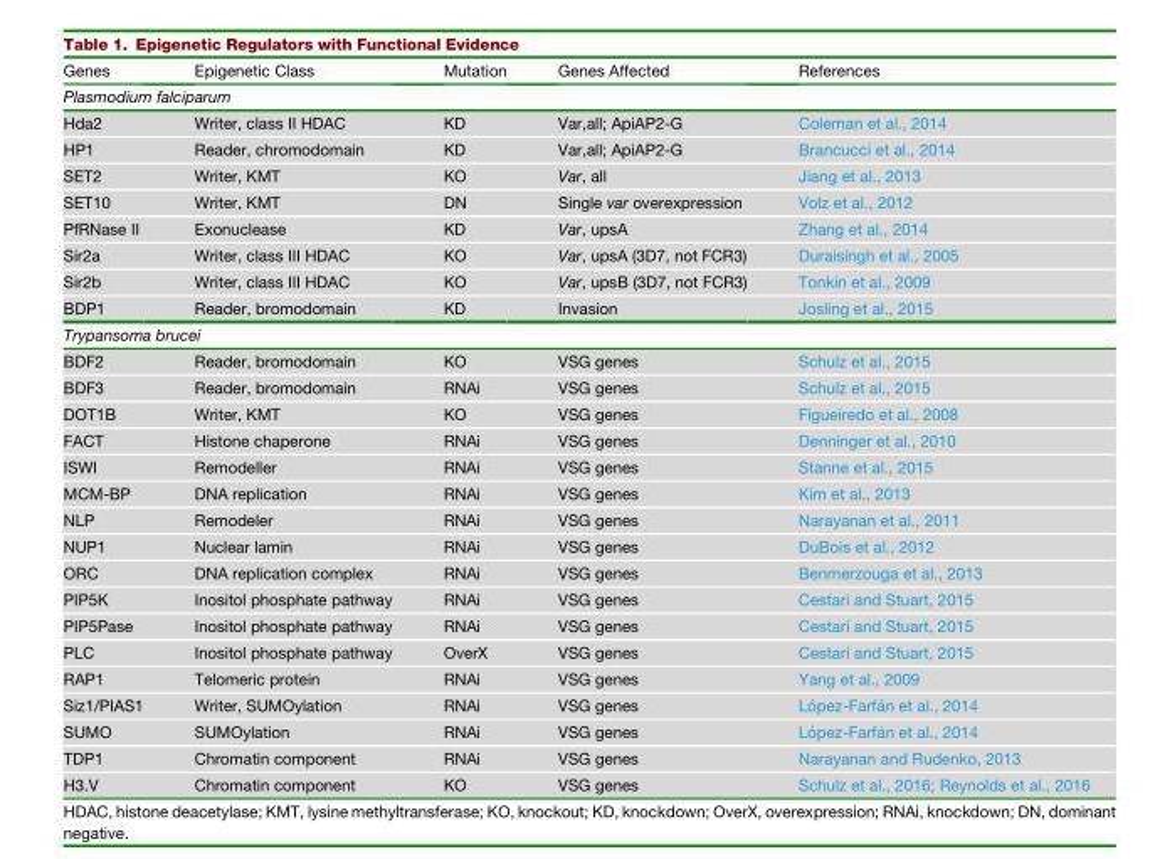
<table><thead><tr><td>Genes</td><td>Epigenetic Class</td><td>Mutation</td><td>Genes Affected</td><td>References</td></tr></thead><tbody><tr><td colspan="5">Plasmodium falciparum</td></tr><tr><td>Hda2</td><td>Writer, class II HDAC</td><td>KD</td><td>Var,all; ApiAP2-G</td><td>Coleman et al., 2014</td></tr><tr><td>HP1</td><td>Reader, chromodomain</td><td>KD</td><td>Var,all; ApiAP2-G</td><td>Brancucci et al., 2014</td></tr><tr><td>SET2</td><td>Writer, KMT</td><td>KO</td><td>Var, all</td><td>Jiang et al., 2013</td></tr><tr><td>SET10</td><td>Writer, KMT</td><td>DN</td><td>Single var overexpression</td><td>Volz et al., 2012</td></tr><tr><td>PfRNase II</td><td>Exonuclease</td><td>KD</td><td>Var, upsA</td><td>Zhang et al., 2014</td></tr><tr><td>Sir2a</td><td>Writer, class III HDAC</td><td>KO</td><td>Var, upsA (3D7, not FCR3)</td><td>Duraisingh et al., 2005</td></tr><tr><td>Sir2b</td><td>Writer, class III HDAC</td><td>KO</td><td>Var, upsB (3D7, not FCR3)</td><td>Tonkin et al., 2009</td></tr><tr><td>BDP1</td><td>Reader, bromodomain</td><td>KD</td><td>Invasion</td><td>Josling et al., 2015</td></tr><tr><td colspan="5">Trypansoma brucei</td></tr><tr><td>BDF2</td><td>Reader, bromodomain</td><td>KO</td><td>VSG genes</td><td>Schulz et al., 2015</td></tr><tr><td>BDF3</td><td>Reader, bromodomain</td><td>RNAi</td><td>VSG genes</td><td>Schulz et al., 2015</td></tr><tr><td>DOT1B</td><td>Writer, KMT</td><td>KO</td><td>VSG genes</td><td>Figueiredo et al., 2008</td></tr><tr><td>FACT</td><td>Histone chaperone</td><td>RNAi</td><td>VSG genes</td><td>Denninger et al., 2010</td></tr><tr><td>ISWI</td><td>Remodeller</td><td>RNAi</td><td>VSG genes</td><td>Stanne et al., 2015</td></tr><tr><td>MCM-BP</td><td>DNA replication</td><td>RNAi</td><td>VSG genes</td><td>Kim et al., 2013</td></tr><tr><td>NLP</td><td>Remodeler</td><td>RNAi</td><td>VSG genes</td><td>Narayanan et al., 2011</td></tr><tr><td>NUP1</td><td>Nuclear lamin</td><td>RNAi</td><td>VSG genes</td><td>DuBois et al., 2012</td></tr><tr><td>ORC</td><td>DNA replication complex</td><td>RNAi</td><td>VSG genes</td><td>Benmerzouga et al., 2013</td></tr><tr><td>PIP5K</td><td>Inositol phosphate pathway</td><td>RNAi</td><td>VSG genes</td><td>Cestari and Stuart, 2015</td></tr><tr><td>PIP5Pase</td><td>Inositol phosphate pathway</td><td>RNAi</td><td>VSG genes</td><td>Cestari and Stuart, 2015</td></tr><tr><td>PLC</td><td>Inositol phosphate pathway</td><td>OverX</td><td>VSG genes</td><td>Cestari and Stuart, 2015</td></tr><tr><td>RAP1</td><td>Telomeric protein</td><td>RNAi</td><td>VSG genes</td><td>Yang et al., 2009</td></tr><tr><td>Siz1/PIAS1</td><td>Writer, SUMOylation</td><td>RNAi</td><td>VSG genes</td><td>Lo´ pez-Farfa´ n et al., 2014</td></tr><tr><td>SUMO</td><td>SUMOylation</td><td>RNAi</td><td>VSG genes</td><td>Lo´ pez-Farfa´ n et al., 2014</td></tr><tr><td>TDP1</td><td>Chromatin component</td><td>RNAi</td><td>VSG genes</td><td>Narayanan and Rudenko, 2013</td></tr><tr><td>H3.V</td><td>Chromatin component</td><td>KO</td><td>VSG genes</td><td>Schulz et al., 2016; Reynolds et al., 2016</td></tr></tbody></table>